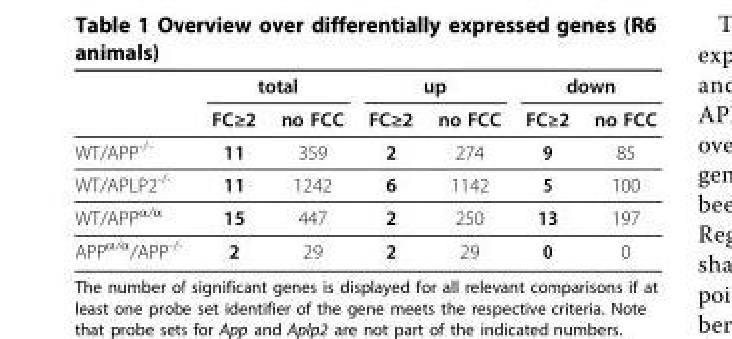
<table><thead><tr><td rowspan="2"></td><td colspan="2">total</td><td colspan="2">up</td><td colspan="2">down</td></tr><tr><td>FC≥2</td><td>no FCC</td><td>FC≥2</td><td>no FCC</td><td>FC≥2</td><td>no FCC</td></tr></thead><tbody><tr><td>WT/APP<sup>-/-</sup></td><td>11</td><td>359</td><td>2</td><td>274</td><td>9</td><td>85</td></tr><tr><td>WT/APLP2<sup>-/-</sup></td><td>11</td><td>1242</td><td>6</td><td>1142</td><td>5</td><td>100</td></tr><tr><td>WT/APP<sup>α/α</sup></td><td>15</td><td>447</td><td>2</td><td>250</td><td>13</td><td>197</td></tr><tr><td>APP<sup>α/α</sup>/APP<sup>-/-</sup></td><td>2</td><td>29</td><td>2</td><td>29</td><td>0</td><td>0</td></tr></tbody></table>